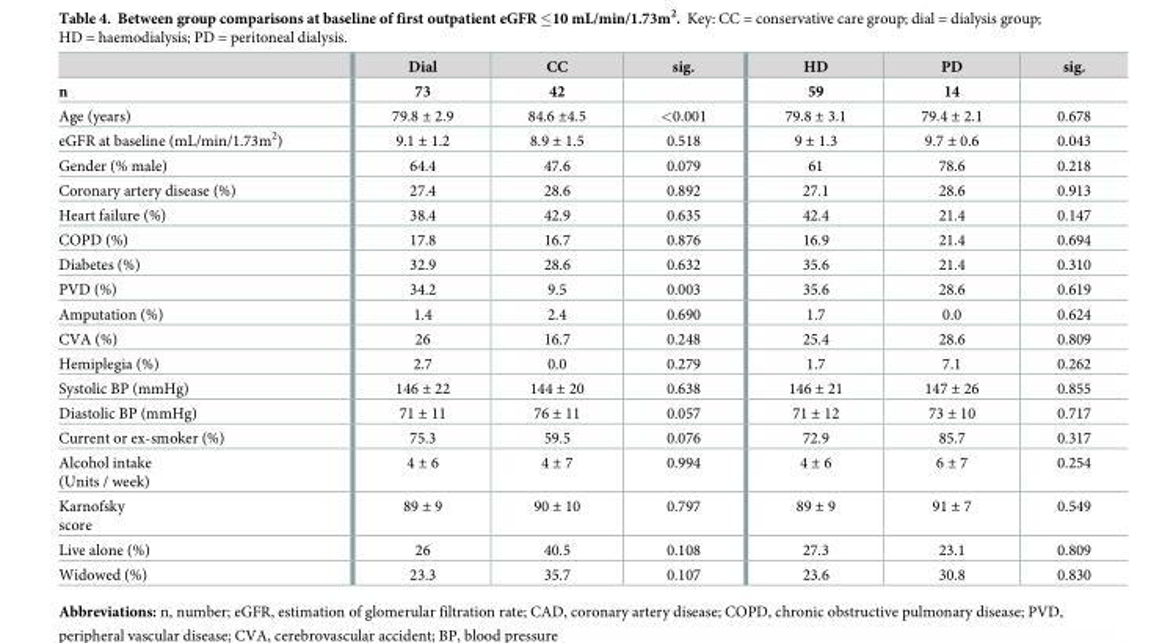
<table><thead><tr><td rowspan="2">n</td><td rowspan="2">Dial 73</td><td rowspan="2">CC 42</td><td rowspan="2">sig.</td><td rowspan="2">HD 59</td><td rowspan="2">PD 14</td><td rowspan="2">sig.</td></tr><tr></tr></thead><tbody><tr><td>Age (years)</td><td>79.8 ± 2.9</td><td>84.6 ±4.5</td><td>&lt;0.001</td><td>79.8 ± 3.1</td><td>79.4 ± 2.1</td><td>0.678</td></tr><tr><td>eGFR at baseline (mL/min/1.73m<sup>2</sup>)</td><td>9.1 ± 1.2</td><td>8.9 ± 1.5</td><td>0.518</td><td>9 ± 1.3</td><td>9.7 ± 0.6</td><td>0.043</td></tr><tr><td>Gender (% male)</td><td>64.4</td><td>47.6</td><td>0.079</td><td>61</td><td>78.6</td><td>0.218</td></tr><tr><td>Coronary artery disease (%)</td><td>27.4</td><td>28.6</td><td>0.892</td><td>27.1</td><td>28.6</td><td>0.913</td></tr><tr><td>Heart failure (%)</td><td>38.4</td><td>42.9</td><td>0.635</td><td>42.4</td><td>21.4</td><td>0.147</td></tr><tr><td>COPD (%)</td><td>17.8</td><td>16.7</td><td>0.876</td><td>16.9</td><td>21.4</td><td>0.694</td></tr><tr><td>Diabetes (%)</td><td>32.9</td><td>28.6</td><td>0.632</td><td>35.6</td><td>21.4</td><td>0.310</td></tr><tr><td>PVD (%)</td><td>34.2</td><td>9.5</td><td>0.003</td><td>35.6</td><td>28.6</td><td>0.619</td></tr><tr><td>Amputation (%)</td><td>1.4</td><td>2.4</td><td>0.690</td><td>1.7</td><td>0.0</td><td>0.624</td></tr><tr><td>CVA (%)</td><td>26</td><td>16.7</td><td>0.248</td><td>25.4</td><td>28.6</td><td>0.809</td></tr><tr><td>Hemiplegia (%)</td><td>2.7</td><td>0.0</td><td>0.279</td><td>1.7</td><td>7.1</td><td>0.262</td></tr><tr><td>Systolic BP (mmHg)</td><td>146 ± 22</td><td>144 ± 20</td><td>0.638</td><td>146 ± 21</td><td>147 ± 26</td><td>0.855</td></tr><tr><td>Diastolic BP (mmHg)</td><td>71 ± 11</td><td>76 ± 11</td><td>0.057</td><td>71 ± 12</td><td>73 ± 10</td><td>0.717</td></tr><tr><td>Current or ex-smoker (%)</td><td>75.3</td><td>59.5</td><td>0.076</td><td>72.9</td><td>85.7</td><td>0.317</td></tr><tr><td>Alcohol intake (Units / week)</td><td>4 ± 6</td><td>4 ± 7</td><td>0.994</td><td>4 ± 6</td><td>6 ± 7</td><td>0.254</td></tr><tr><td>Karnofsky score</td><td>89 ± 9</td><td>90 ± 10</td><td>0.797</td><td>89 ± 9</td><td>91 ± 7</td><td>0.549</td></tr><tr><td>Live alone (%)</td><td>26</td><td>40.5</td><td>0.108</td><td>27.3</td><td>23.1</td><td>0.809</td></tr><tr><td>Widowed (%)</td><td>23.3</td><td>35.7</td><td>0.107</td><td>23.6</td><td>30.8</td><td>0.830</td></tr></tbody></table>